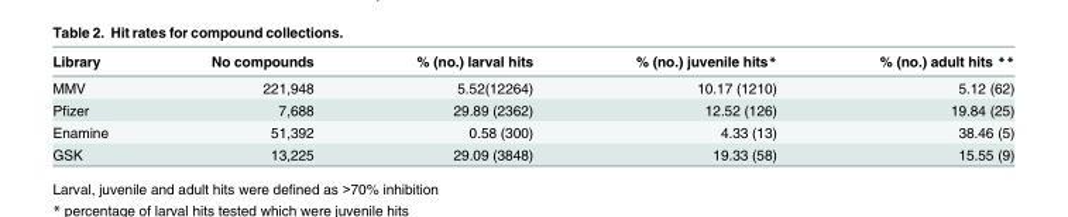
<table><thead><tr><td>Library</td><td>No compounds</td><td>% (no.) larval hits</td><td>% (no.) juvenile hits*</td><td>% (no.) adult hits **</td></tr></thead><tbody><tr><td>MMV</td><td>221,948</td><td>5.52(12264)</td><td>10.17 (1210)</td><td>5.12 (62)</td></tr><tr><td>Pfizer</td><td>7,688</td><td>29.89 (2362)</td><td>12.52 (126)</td><td>19.84 (25)</td></tr><tr><td>Enamine</td><td>51,392</td><td>0.58 (300)</td><td>4.33 (13)</td><td>38.46 (5)</td></tr><tr><td>GSK</td><td>13,225</td><td>29.09 (3848)</td><td>19.33 (58)</td><td>15.55 (9)</td></tr></tbody></table>